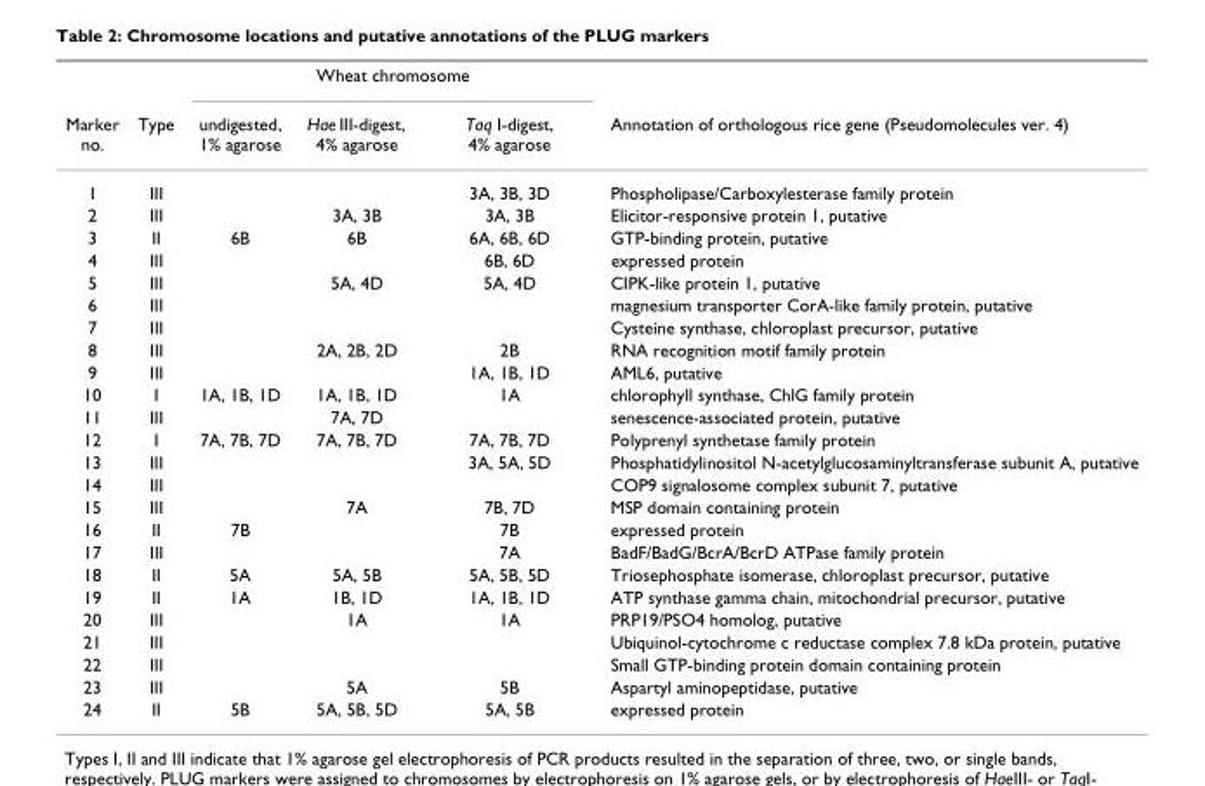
<table><thead><tr><td rowspan="2">Marker no.</td><td rowspan="2">Type</td><td colspan="3">Wheat chromosome</td><td rowspan="2">Annotation of orthologous rice gene (Pseudomolecules ver. 4)</td></tr><tr><td>undigested, 1% agarose</td><td>Hae III-digest, 4% agarose</td><td>Taq I-digest, 4% agarose</td></tr></thead><tbody><tr><td>1</td><td>III</td><td></td><td></td><td>3A, 3B, 3D</td><td>Phospholipase/Carboxylesterase family protein</td></tr><tr><td>2</td><td>III</td><td></td><td>3A, 3B</td><td>3A, 3B</td><td>Elicitor-responsive protein 1, putative</td></tr><tr><td>3</td><td>II</td><td>6B</td><td>6B</td><td>6A, 6B, 6D</td><td>GTP-binding protein, putative</td></tr><tr><td>4</td><td>III</td><td></td><td></td><td>6B, 6D</td><td>expressed protein</td></tr><tr><td>5</td><td>III</td><td></td><td>5A, 4D</td><td>5A, 4D</td><td>CIPK-like protein 1, putative</td></tr><tr><td>6</td><td>III</td><td></td><td></td><td></td><td>magnesium transporter CorA-like family protein, putative</td></tr><tr><td>7</td><td>III</td><td></td><td></td><td></td><td>Cysteine synthase, chloroplast precursor, putative</td></tr><tr><td>8</td><td>III</td><td></td><td>2A, 2B, 2D</td><td>2B</td><td>RNA recognition motif family protein</td></tr><tr><td>9</td><td>III</td><td></td><td></td><td>1A, 1B, 1D</td><td>AML6, putative</td></tr><tr><td>10</td><td>I</td><td>1A, 1B, 1D</td><td>1A, 1B, 1D</td><td>1A</td><td>chlorophyll synthase, ChlG family protein</td></tr><tr><td>11</td><td>III</td><td></td><td>7A, 7D</td><td></td><td>senescence-associated protein, putative</td></tr><tr><td>12</td><td>I</td><td>7A, 7B, 7D</td><td>7A, 7B, 7D</td><td>7A, 7B, 7D</td><td>Polyprenyl synthetase family protein</td></tr><tr><td>13</td><td>III</td><td></td><td></td><td>3A, 5A, 5D</td><td>Phosphatidylinositol N-acetylglucosaminyltransferase subunit A, putative</td></tr><tr><td>14</td><td>III</td><td></td><td></td><td></td><td>COP9 signalosome complex subunit 7, putative</td></tr><tr><td>15</td><td>III</td><td></td><td>7A</td><td>7B, 7D</td><td>MSP domain containing protein</td></tr><tr><td>16</td><td>II</td><td>7B</td><td></td><td>7B</td><td>expressed protein</td></tr><tr><td>17</td><td>III</td><td></td><td></td><td>7A</td><td>BadF/BadG/BcrA/BcrD ATPase family protein</td></tr><tr><td>18</td><td>II</td><td>5A</td><td>5A, 5B</td><td>5A, 5B, 5D</td><td>Triosephosphate isomerase, chloroplast precursor, putative</td></tr><tr><td>19</td><td>II</td><td>1A</td><td>1B, 1D</td><td>1A, 1B, 1D</td><td>ATP synthase gamma chain, mitochondrial precursor, putative</td></tr><tr><td>20</td><td>III</td><td></td><td>1A</td><td>1A</td><td>PRP19/PSO4 homolog, putative</td></tr><tr><td>21</td><td>III</td><td></td><td></td><td></td><td>Ubiquinol-cytochrome c reductase complex 7.8 kDa protein, putative</td></tr><tr><td>22</td><td>III</td><td></td><td></td><td></td><td>Small GTP-binding protein domain containing protein</td></tr><tr><td>23</td><td>III</td><td></td><td>5A</td><td>5B</td><td>Aspartyl aminopeptidase, putative</td></tr><tr><td>24</td><td>II</td><td>5B</td><td>5A, 5B, 5D</td><td>5A, 5B</td><td>expressed protein</td></tr></tbody></table>